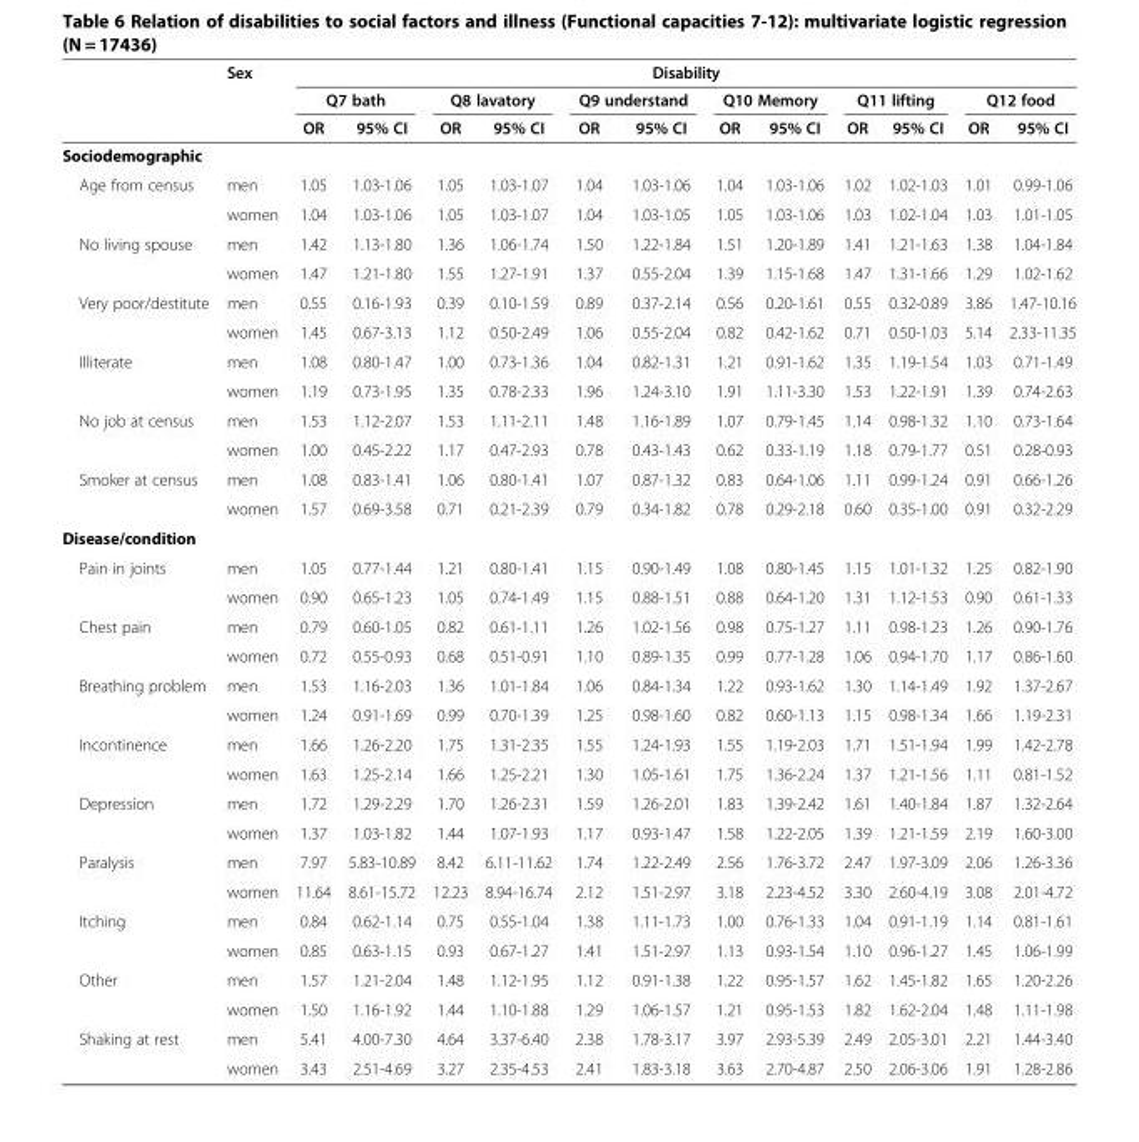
<table><thead><tr><td rowspan="3"></td><td rowspan="3">Sex</td><td colspan="12">Disability</td></tr><tr><td colspan="2">Q7 bath</td><td colspan="2">Q8 lavatory</td><td colspan="2">Q9 understand</td><td colspan="2">Q10 Memory</td><td colspan="2">Q11 lifting</td><td colspan="2">Q12 food</td></tr><tr><td>OR</td><td>95% CI</td><td>OR</td><td>95% CI</td><td>OR</td><td>95% CI</td><td>OR</td><td>95% CI</td><td>OR</td><td>95% CI</td><td>OR</td><td>95% CI</td></tr></thead><tbody><tr><td colspan="14">Sociodemographic</td></tr><tr><td rowspan="2">Age from census</td><td>men</td><td>1.05</td><td>1.03-1.06</td><td>1.05</td><td>1.03-1.07</td><td>1.04</td><td>1.03-1.06</td><td>1.04</td><td>1.03-1.06</td><td>1.02</td><td>1.02-1.03</td><td>1.01</td><td>0.99-1.06</td></tr><tr><td>women</td><td>1.04</td><td>1.03-1.06</td><td>1.05</td><td>1.03-1.07</td><td>1.04</td><td>1.03-1.05</td><td>1.05</td><td>1.03-1.06</td><td>1.03</td><td>1.02-1.04</td><td>1.03</td><td>1.01-1.05</td></tr><tr><td rowspan="2">No living spouse</td><td>men</td><td>1.42</td><td>1.13-1.80</td><td>1.36</td><td>1.06-1.74</td><td>1.50</td><td>1.22-1.84</td><td>1.51</td><td>1.20-1.89</td><td>1.41</td><td>1.21-1.63</td><td>1.38</td><td>1.04-1.84</td></tr><tr><td>women</td><td>1.47</td><td>1.21-1.80</td><td>1.55</td><td>1.27-1.91</td><td>1.37</td><td>0.55-2.04</td><td>1.39</td><td>1.15-1.68</td><td>1.47</td><td>1.31-1.66</td><td>1.29</td><td>1.02-1.62</td></tr><tr><td rowspan="2">Very poor/destitute</td><td>men</td><td>0.55</td><td>0.16-1.93</td><td>0.39</td><td>0.10-1.59</td><td>0.89</td><td>0.37-2.14</td><td>0.56</td><td>0.20-1.61</td><td>0.55</td><td>0.32-0.89</td><td>3.86</td><td>1.47-10.16</td></tr><tr><td>women</td><td>1.45</td><td>0.67-3.13</td><td>1.12</td><td>0.50-2.49</td><td>1.06</td><td>0.55-2.04</td><td>0.82</td><td>0.42-1.62</td><td>0.71</td><td>0.50-1.03</td><td>5.14</td><td>2.33-11.35</td></tr><tr><td rowspan="2">Illiterate</td><td>men</td><td>1.08</td><td>0.80-1.47</td><td>1.00</td><td>0.73-1.36</td><td>1.04</td><td>0.82-1.31</td><td>1.21</td><td>0.91-1.62</td><td>1.35</td><td>1.19-1.54</td><td>1.03</td><td>0.71-1.49</td></tr><tr><td>women</td><td>1.19</td><td>0.73-1.95</td><td>1.35</td><td>0.78-2.33</td><td>1.96</td><td>1.24-3.10</td><td>1.91</td><td>1.11-3.30</td><td>1.53</td><td>1.22-1.91</td><td>1.39</td><td>0.74-2.63</td></tr><tr><td rowspan="2">No job at census</td><td>men</td><td>1.53</td><td>1.12-2.07</td><td>1.53</td><td>1.11-2.11</td><td>1.48</td><td>1.16-1.89</td><td>1.07</td><td>0.79-1.45</td><td>1.14</td><td>0.98-1.32</td><td>1.10</td><td>0.73-1.64</td></tr><tr><td>women</td><td>1.00</td><td>0.45-2.22</td><td>1.17</td><td>0.47-2.93</td><td>0.78</td><td>0.43-1.43</td><td>0.62</td><td>0.33-1.19</td><td>1.18</td><td>0.79-1.77</td><td>0.51</td><td>0.28-0.93</td></tr><tr><td rowspan="2">Smoker at census</td><td>men</td><td>1.08</td><td>0.83-1.41</td><td>1.06</td><td>0.80-1.41</td><td>1.07</td><td>0.87-1.32</td><td>0.83</td><td>0.64-1.06</td><td>1.11</td><td>0.99-1.24</td><td>0.91</td><td>0.66-1.26</td></tr><tr><td>women</td><td>1.57</td><td>0.69-3.58</td><td>0.71</td><td>0.21-2.39</td><td>0.79</td><td>0.34-1.82</td><td>0.78</td><td>0.29-2.18</td><td>0.60</td><td>0.35-1.00</td><td>0.91</td><td>0.32-2.29</td></tr><tr><td colspan="14">Disease/condition</td></tr><tr><td rowspan="2">Pain in joints</td><td>men</td><td>1.05</td><td>0.77-1.44</td><td>1.21</td><td>0.80-1.41</td><td>1.15</td><td>0.90-1.49</td><td>1.08</td><td>0.80-1.45</td><td>1.15</td><td>1.01-1.32</td><td>1.25</td><td>0.82-1.90</td></tr><tr><td>women</td><td>0.90</td><td>0.65-1.23</td><td>1.05</td><td>0.74-1.49</td><td>1.15</td><td>0.88-1.51</td><td>0.88</td><td>0.64-1.20</td><td>1.31</td><td>1.12-1.53</td><td>0.90</td><td>0.61-1.33</td></tr><tr><td rowspan="2">Chest pain</td><td>men</td><td>0.79</td><td>0.60-1.05</td><td>0.82</td><td>0.61-1.11</td><td>1.26</td><td>1.02-1.56</td><td>0.98</td><td>0.75-1.27</td><td>1.11</td><td>0.98-1.23</td><td>1.26</td><td>0.90-1.76</td></tr><tr><td>women</td><td>0.72</td><td>0.55-0.93</td><td>0.68</td><td>0.51-0.91</td><td>1.10</td><td>0.89-1.35</td><td>0.99</td><td>0.77-1.28</td><td>1.06</td><td>0.94-1.70</td><td>1.17</td><td>0.86-1.60</td></tr><tr><td rowspan="2">Breathing problem</td><td>men</td><td>1.53</td><td>1.16-2.03</td><td>1.36</td><td>1.01-1.84</td><td>1.06</td><td>0.84-1.34</td><td>1.22</td><td>0.93-1.62</td><td>1.30</td><td>1.14-1.49</td><td>1.92</td><td>1.37-2.67</td></tr><tr><td>women</td><td>1.24</td><td>0.91-1.69</td><td>0.99</td><td>0.70-1.39</td><td>1.25</td><td>0.98-1.60</td><td>0.82</td><td>0.60-1.13</td><td>1.15</td><td>0.98-1.34</td><td>1.66</td><td>1.19-2.31</td></tr><tr><td rowspan="2">Incontinence</td><td>men</td><td>1.66</td><td>1.26-2.20</td><td>1.75</td><td>1.31-2.35</td><td>1.55</td><td>1.24-1.93</td><td>1.55</td><td>1.19-2.03</td><td>1.71</td><td>1.51-1.94</td><td>1.99</td><td>1.42-2.78</td></tr><tr><td>women</td><td>1.63</td><td>1.25-2.14</td><td>1.66</td><td>1.25-2.21</td><td>1.30</td><td>1.05-1.61</td><td>1.75</td><td>1.36-2.24</td><td>1.37</td><td>1.21-1.56</td><td>1.11</td><td>0.81-1.52</td></tr><tr><td rowspan="2">Depression</td><td>men</td><td>1.72</td><td>1.29-2.29</td><td>1.70</td><td>1.26-2.31</td><td>1.59</td><td>1.26-2.01</td><td>1.83</td><td>1.39-2.42</td><td>1.61</td><td>1.40-1.84</td><td>1.87</td><td>1.32-2.64</td></tr><tr><td>women</td><td>1.37</td><td>1.03-1.82</td><td>1.44</td><td>1.07-1.93</td><td>1.17</td><td>0.93-1.47</td><td>1.58</td><td>1.22-2.05</td><td>1.39</td><td>1.21-1.59</td><td>2.19</td><td>1.60-3.00</td></tr><tr><td rowspan="2">Paralysis</td><td>men</td><td>7.97</td><td>5.83-10.89</td><td>8.42</td><td>6.11-11.62</td><td>1.74</td><td>1.22-2.49</td><td>2.56</td><td>1.76-3.72</td><td>2.47</td><td>1.97-3.09</td><td>2.06</td><td>1.26-3.36</td></tr><tr><td>women</td><td>11.64</td><td>8.61-15.72</td><td>12.23</td><td>8.94-16.74</td><td>2.12</td><td>1.51-2.97</td><td>3.18</td><td>2.23-4.52</td><td>3.30</td><td>2.60-4.19</td><td>3.08</td><td>2.01-4.72</td></tr><tr><td rowspan="2">Itching</td><td>men</td><td>0.84</td><td>0.62-1.14</td><td>0.75</td><td>0.55-1.04</td><td>1.38</td><td>1.11-1.73</td><td>1.00</td><td>0.76-1.33</td><td>1.04</td><td>0.91-1.19</td><td>1.14</td><td>0.81-1.61</td></tr><tr><td>women</td><td>0.85</td><td>0.63-1.15</td><td>0.93</td><td>0.67-1.27</td><td>1.41</td><td>1.51-2.97</td><td>1.13</td><td>0.93-1.54</td><td>1.10</td><td>0.96-1.27</td><td>1.45</td><td>1.06-1.99</td></tr><tr><td rowspan="2">Other</td><td>men</td><td>1.57</td><td>1.21-2.04</td><td>1.48</td><td>1.12-1.95</td><td>1.12</td><td>0.91-1.38</td><td>1.22</td><td>0.95-1.57</td><td>1.62</td><td>1.45-1.82</td><td>1.65</td><td>1.20-2.26</td></tr><tr><td>women</td><td>1.50</td><td>1.16-1.92</td><td>1.44</td><td>1.10-1.88</td><td>1.29</td><td>1.06-1.57</td><td>1.21</td><td>0.95-1.53</td><td>1.82</td><td>1.62-2.04</td><td>1.48</td><td>1.11-1.98</td></tr><tr><td rowspan="2">Shaking at rest</td><td>men</td><td>5.41</td><td>4.00-7.30</td><td>4.64</td><td>3.37-6.40</td><td>2.38</td><td>1.78-3.17</td><td>3.97</td><td>2.93-5.39</td><td>2.49</td><td>2.05-3.01</td><td>2.21</td><td>1.44-3.40</td></tr><tr><td>women</td><td>3.43</td><td>2.51-4.69</td><td>3.27</td><td>2.35-4.53</td><td>2.41</td><td>1.83-3.18</td><td>3.63</td><td>2.70-4.87</td><td>2.50</td><td>2.06-3.06</td><td>1.91</td><td>1.28-2.86</td></tr></tbody></table>